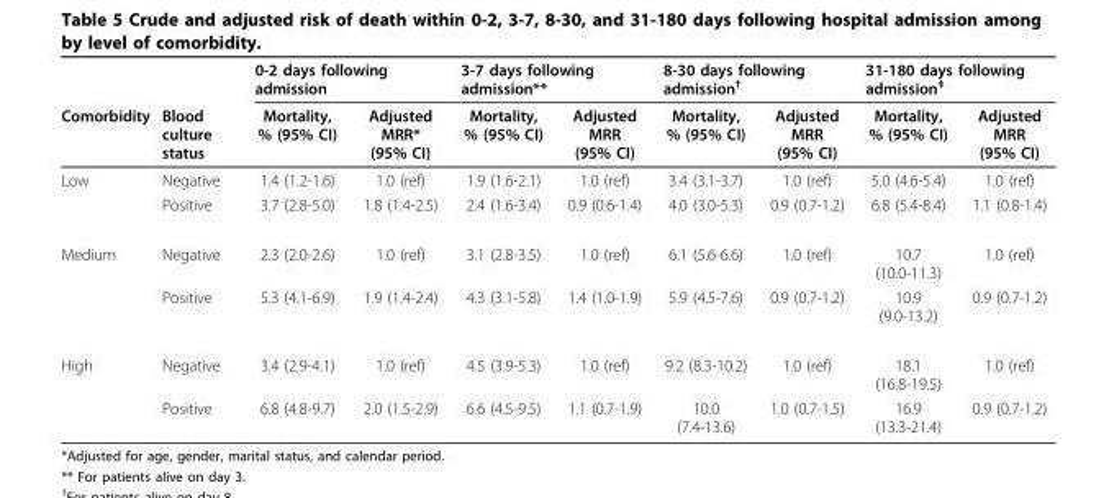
<table><thead><tr><td rowspan="2">Comorbidity</td><td rowspan="2">Blood culture status</td><td colspan="2">0-2 days following admission</td><td colspan="2">3-7 days following admission**</td><td colspan="2">8-30 days following admission<sup>†</sup></td><td colspan="2">31-180 days following admission<sup>‡</sup></td></tr><tr><td>Mortality, % (95% CI)</td><td>Adjusted MRR* (95% CI)</td><td>Mortality, % (95% CI)</td><td>Adjusted MRR (95% CI)</td><td>Mortality, % (95% CI)</td><td>Adjusted MRR (95% CI)</td><td>Mortality, % (95% CI)</td><td>Adjusted MRR (95% CI)</td></tr></thead><tbody><tr><td rowspan="2">Low</td><td>Negative</td><td>1.4 (1.2-1.6)</td><td>1.0 (ref)</td><td>1.9 (1.6-2.1)</td><td>1.0 (ref)</td><td>3.4 (3.1-3.7)</td><td>1.0 (ref)</td><td>5.0 (4.6-5.4)</td><td>1.0 (ref)</td></tr><tr><td>Positive</td><td>3.7 (2.8-5.0)</td><td>1.8 (1.4-2.5)</td><td>2.4 (1.6-3.4)</td><td>0.9 (0.6-1.4)</td><td>4.0 (3.0-5.3)</td><td>0.9 (0.7-1.2)</td><td>6.8 (5.4-8.4)</td><td>1.1 (0.8-1.4)</td></tr><tr><td rowspan="2">Medium</td><td>Negative</td><td>2.3 (2.0-2.6)</td><td>1.0 (ref)</td><td>3.1 (2.8-3.5)</td><td>1.0 (ref)</td><td>6.1 (5.6-6.6)</td><td>1.0 (ref)</td><td>10.7 (10.0-11.3)</td><td>1.0 (ref)</td></tr><tr><td>Positive</td><td>5.3 (4.1-6.9)</td><td>1.9 (1.4-2.4)</td><td>4.3 (3.1-5.8)</td><td>1.4 (1.0-1.9)</td><td>5.9 (4.5-7.6)</td><td>0.9 (0.7-1.2)</td><td>10.9 (9.0-13.2)</td><td>0.9 (0.7-1.2)</td></tr><tr><td rowspan="2">High</td><td>Negative</td><td>3.4 (2.9-4.1)</td><td>1.0 (ref)</td><td>4.5 (3.9-5.3)</td><td>1.0 (ref)</td><td>9.2 (8.3-10.2)</td><td>1.0 (ref)</td><td>18.1 (16.8-19.5)</td><td>1.0 (ref)</td></tr><tr><td>Positive</td><td>6.8 (4.8-9.7)</td><td>2.0 (1.5-2.9)</td><td>6.6 (4.5-9.5)</td><td>1.1 (0.7-1.9)</td><td>10.0 (7.4-13.6)</td><td>1.0 (0.7-1.5)</td><td>16.9 (13.3-21.4)</td><td>0.9 (0.7-1.2)</td></tr></tbody></table>